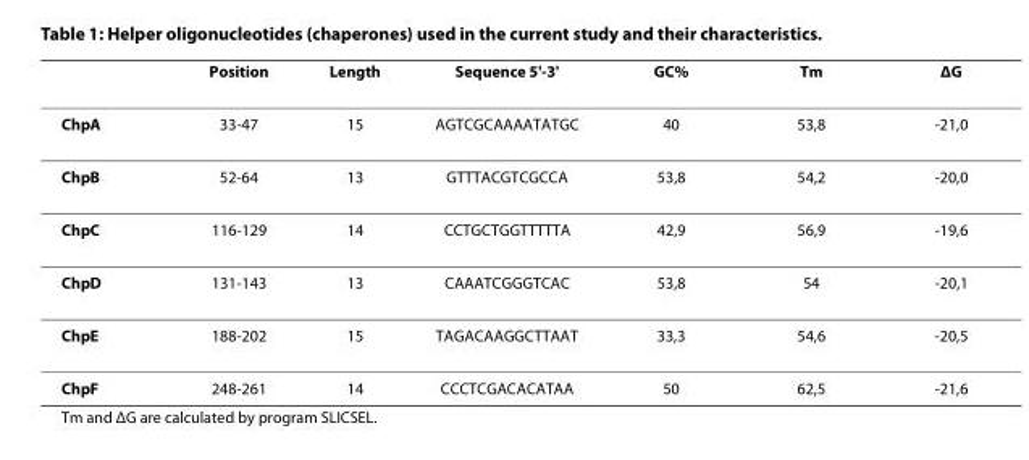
<table><thead><tr><td></td><td>Position</td><td>Length</td><td>Sequence 5&#x27;-3&#x27;</td><td>GC%</td><td>Tm</td><td>ΔG</td></tr></thead><tbody><tr><td>ChpA</td><td>33-47</td><td>15</td><td>AGTCGCAAAATATGC</td><td>40</td><td>53,8</td><td>-21,0</td></tr><tr><td>ChpB</td><td>52-64</td><td>13</td><td>GTTTACGTCGCCA</td><td>53,8</td><td>54,2</td><td>-20,0</td></tr><tr><td>ChpC</td><td>116-129</td><td>14</td><td>CCTGCTGGTTTTTA</td><td>42,9</td><td>56,9</td><td>-19,6</td></tr><tr><td>ChpD</td><td>131-143</td><td>13</td><td>CAAATCGGGTCAC</td><td>53,8</td><td>54</td><td>-20,1</td></tr><tr><td>ChpE</td><td>188-202</td><td>15</td><td>TAGACAAGGCTTAAT</td><td>33,3</td><td>54,6</td><td>-20,5</td></tr><tr><td>ChpF</td><td>248-261</td><td>14</td><td>CCCTCGACACATAA</td><td>50</td><td>62,5</td><td>-21,6</td></tr></tbody></table>